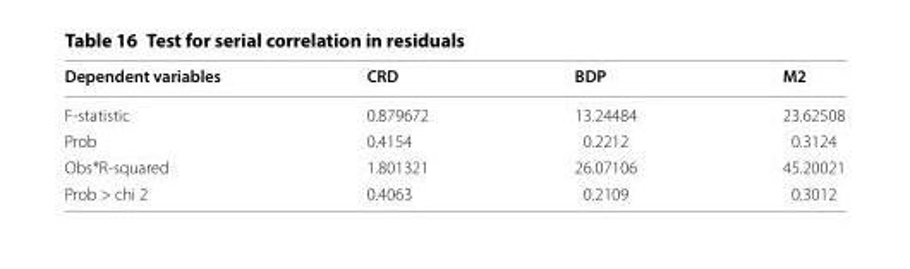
<table><thead><tr><td>Dependent variables</td><td>CRD</td><td>BDP</td><td>M2</td></tr></thead><tbody><tr><td>F-statistic</td><td>0.879672</td><td>13.24484</td><td>23.62508</td></tr><tr><td>Prob</td><td>0.4154</td><td>0.2212</td><td>0.3124</td></tr><tr><td>Obs*R-squared</td><td>1.801321</td><td>26.07106</td><td>45.20021</td></tr><tr><td>Prob &gt; chi 2</td><td>0.4063</td><td>0.2109</td><td>0.3012</td></tr></tbody></table>